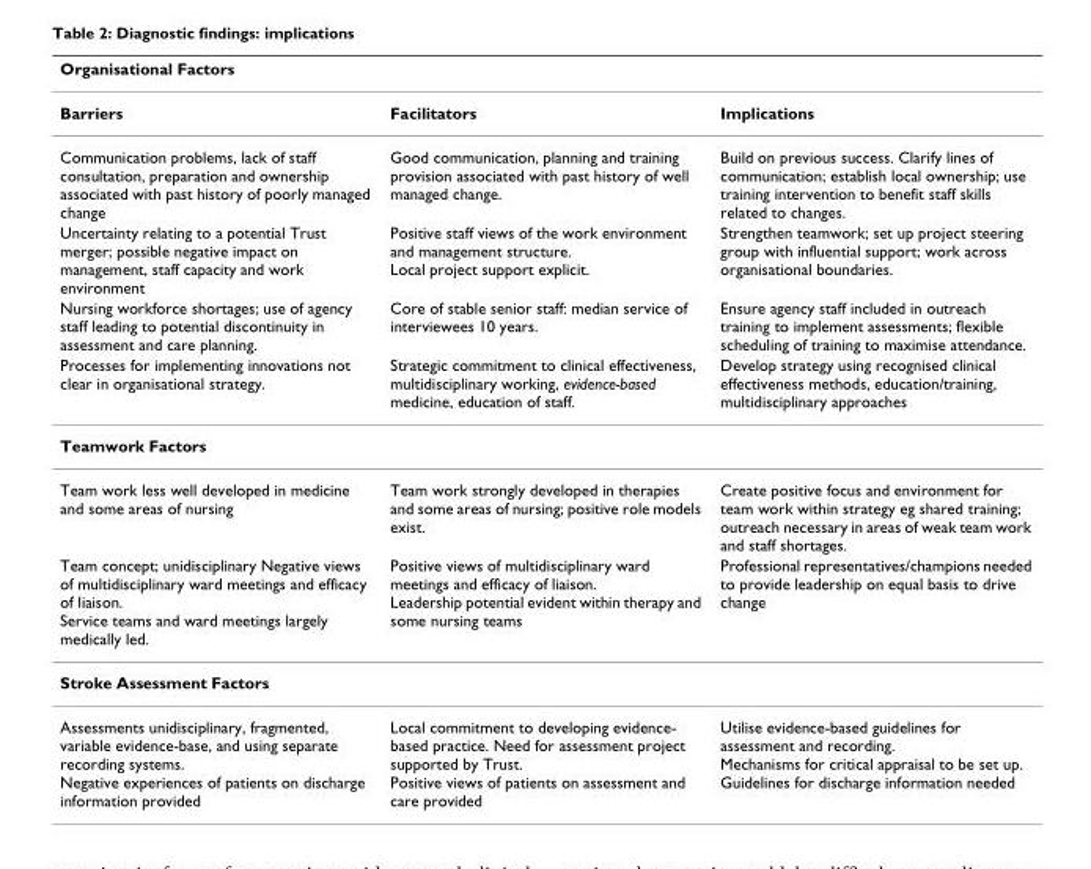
<table><thead><tr><td colspan="3">Organisational Factors</td></tr><tr><td>Barriers</td><td>Facilitators</td><td>Implications</td></tr></thead><tbody><tr><td>Communication problems, lack of staff consultation, preparation and ownership associated with past history of poorly managed change</td><td>Good communication, planning and training provision associated with past history of well managed change.</td><td>Build on previous success. Clarify lines of communication; establish local ownership; use training intervention to benefit staff skills related to changes.</td></tr><tr><td>Uncertainty relating to a potential Trust merger; possible negative impact on management, staff capacity and work environment</td><td>Positive staff views of the work environment and management structure. Local project support explicit.</td><td>Strengthen teamwork; set up project steering group with influential support; work across organisational boundaries.</td></tr><tr><td>Nursing workforce shortages; use of agency staff leading to potential discontinuity in assessment and care planning.</td><td>Core of stable senior staff: median service of interviewees 10 years.</td><td>Ensure agency staff included in outreach training to implement assessments; flexible scheduling of training to maximise attendance.</td></tr><tr><td>Processes for implementing innovations not clear in organisational strategy.</td><td>Strategic commitment to clinical effectiveness, multidisciplinary working, evidence-based medicine, education of staff.</td><td>Develop strategy using recognised clinical effectiveness methods, education/training, multidisciplinary approaches</td></tr><tr><td colspan="3">Teamwork Factors</td></tr><tr><td>Team work less well developed in medicine and some areas of nursing</td><td>Team work strongly developed in therapies and some areas of nursing; positive role models exist.</td><td>Create positive focus and environment for team work within strategy eg shared training; outreach necessary in areas of weak team work and staff shortages.</td></tr><tr><td>Team concept; unidisciplinary Negative views of multidisciplinary ward meetings and efficacy of liaison. Service teams and ward meetings largely medically led.</td><td>Positive views of multidisciplinary ward meetings and efficacy of liaison. Leadership potential evident within therapy and some nursing teams</td><td>Professional representatives/champions needed to provide leadership on equal basis to drive change</td></tr><tr><td colspan="3">Stroke Assessment Factors</td></tr><tr><td>Assessments unidisciplinary, fragmented, variable evidence-base, and using separate recording systems. Negative experiences of patients on discharge information provided</td><td>Local commitment to developing evidence- based practice. Need for assessment project supported by Trust. Positive views of patients on assessment and care provided</td><td>Utilise evidence-based guidelines for assessment and recording. Mechanisms for critical appraisal to be set up. Guidelines for discharge information needed</td></tr></tbody></table>